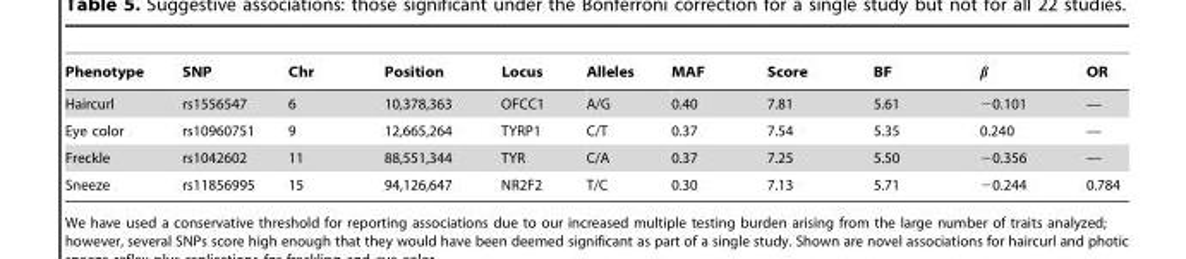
<table><thead><tr><td>Phenotype</td><td>SNP</td><td>Chr</td><td>Position</td><td>Locus</td><td>Alleles</td><td>MAF</td><td>Score</td><td>BF</td><td>b</td><td>OR</td></tr></thead><tbody><tr><td>Haircurl</td><td>rs1556547</td><td>6</td><td>10,378,363</td><td>OFCC1</td><td>A/G</td><td>0.40</td><td>7.81</td><td>5.61</td><td>−0.101</td><td>—</td></tr><tr><td>Eye color</td><td>rs10960751</td><td>9</td><td>12,665,264</td><td>TYRP1</td><td>C/T</td><td>0.37</td><td>7.54</td><td>5.35</td><td>0.240</td><td>—</td></tr><tr><td>Freckle</td><td>rs1042602</td><td>11</td><td>88,551,344</td><td>TYR</td><td>C/A</td><td>0.37</td><td>7.25</td><td>5.50</td><td>−0.356</td><td>—</td></tr><tr><td>Sneeze</td><td>rs11856995</td><td>15</td><td>94,126,647</td><td>NR2F2</td><td>T/C</td><td>0.30</td><td>7.13</td><td>5.71</td><td>−0.244</td><td>0.784</td></tr></tbody></table>